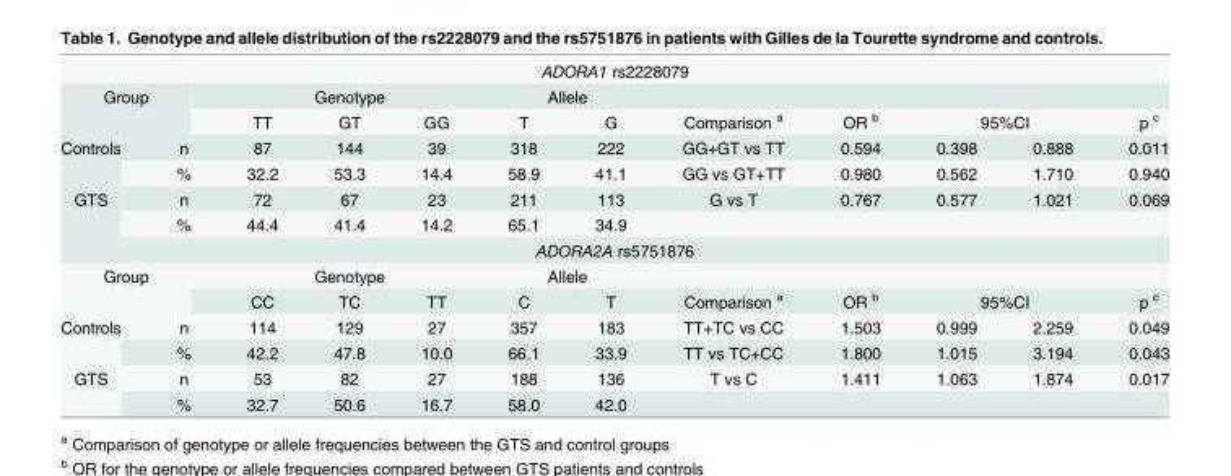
<table><tbody><tr><td colspan="12">ADORA1 rs2228079</td></tr><tr><td rowspan="2" colspan="2">Group</td><td colspan="3">Genotype</td><td colspan="2">Allele</td><td></td><td></td><td></td><td></td><td></td></tr><tr><td>TT</td><td>GT</td><td>GG</td><td>T</td><td>G</td><td>Comparison <sup>a</sup></td><td>OR <sup>b</sup></td><td colspan="2">95%CI</td><td>p <sup>c</sup></td></tr><tr><td rowspan="2">Controls</td><td>n</td><td>87</td><td>144</td><td>39</td><td>318</td><td>222</td><td>GG+GT vs TT</td><td>0.594</td><td>0.398</td><td>0.888</td><td>0.011</td></tr><tr><td>%</td><td>32.2</td><td>53.3</td><td>14.4</td><td>58.9</td><td>41.1</td><td>GG vs GT+TT</td><td>0.980</td><td>0.562</td><td>1.710</td><td>0.940</td></tr><tr><td rowspan="2">GTS</td><td>n</td><td>72</td><td>67</td><td>23</td><td>211</td><td>113</td><td>G vs T</td><td>0.767</td><td>0.577</td><td>1.021</td><td>0.069</td></tr><tr><td>%</td><td>44.4</td><td>41.4</td><td>14.2</td><td>65.1</td><td>34.9</td><td></td><td></td><td></td><td></td><td></td></tr><tr><td colspan="12">ADORA2A rs5751876</td></tr><tr><td rowspan="2" colspan="2">Group</td><td colspan="3">Genotype</td><td colspan="2">Allele</td><td></td><td></td><td></td><td></td><td></td></tr><tr><td>CC</td><td>TC</td><td>TT</td><td>C</td><td>T</td><td>Comparison <sup>a</sup></td><td>OR <sup>b</sup></td><td colspan="2">95%CI</td><td>p <sup>c</sup></td></tr><tr><td rowspan="2">Controls</td><td>n</td><td>114</td><td>129</td><td>27</td><td>357</td><td>183</td><td>TT+TC vs CC</td><td>1.503</td><td>0.999</td><td>2.259</td><td>0.049</td></tr><tr><td>%</td><td>42.2</td><td>47.8</td><td>10.0</td><td>66.1</td><td>33.9</td><td>TT vs TC+CC</td><td>1.800</td><td>1.015</td><td>3.194</td><td>0.043</td></tr><tr><td rowspan="2">GTS</td><td>n</td><td>53</td><td>82</td><td>27</td><td>188</td><td>136</td><td>T vs C</td><td>1.411</td><td>1.063</td><td>1.874</td><td>0.017</td></tr><tr><td>%</td><td>32.7</td><td>50.6</td><td>16.7</td><td>58.0</td><td>42.0</td><td></td><td></td><td></td><td></td><td></td></tr></tbody></table>